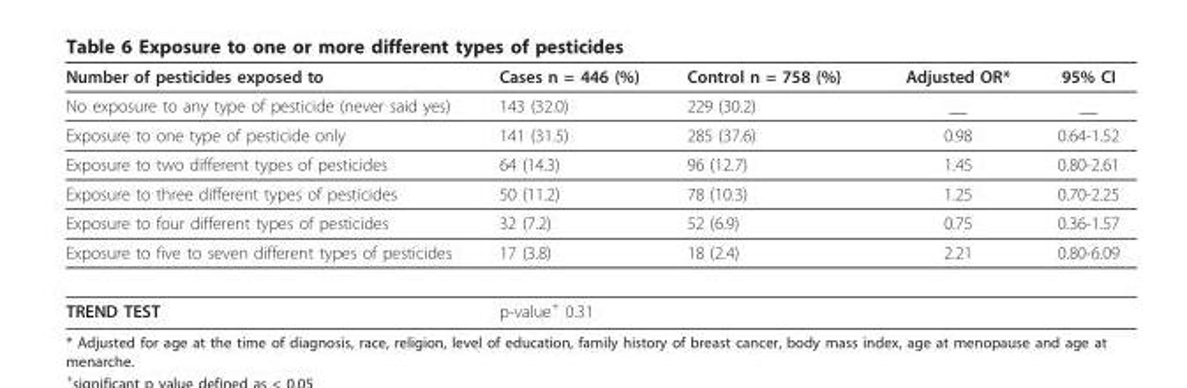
<table><thead><tr><td>Number of pesticides exposed to</td><td>Cases n = 446 (%)</td><td>Control n = 758 (%)</td><td>Adjusted OR*</td><td>95% CI</td></tr></thead><tbody><tr><td>No exposure to any type of pesticide (never said yes)</td><td>143 (32.0)</td><td>229 (30.2)</td><td>__</td><td>__</td></tr><tr><td>Exposure to one type of pesticide only</td><td>141 (31.5)</td><td>285 (37.6)</td><td>0.98</td><td>0.64-1.52</td></tr><tr><td>Exposure to two different types of pesticides</td><td>64 (14.3)</td><td>96 (12.7)</td><td>1.45</td><td>0.80-2.61</td></tr><tr><td>Exposure to three different types of pesticides</td><td>50 (11.2)</td><td>78 (10.3)</td><td>1.25</td><td>0.70-2.25</td></tr><tr><td>Exposure to four different types of pesticides</td><td>32 (7.2)</td><td>52 (6.9)</td><td>0.75</td><td>0.36-1.57</td></tr><tr><td>Exposure to five to seven different types of pesticides</td><td>17 (3.8)</td><td>18 (2.4)</td><td>2.21</td><td>0.80-6.09</td></tr><tr><td>TREND TEST</td><td colspan="4">p-value+ 0.31</td></tr></tbody></table>